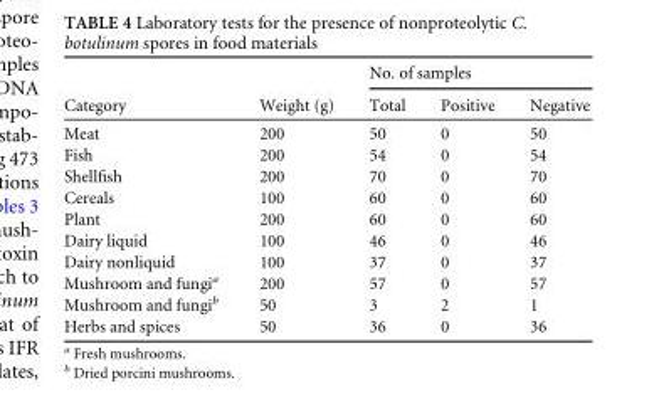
<table><thead><tr><td rowspan="2">Category</td><td rowspan="2">Weight (g)</td><td colspan="3">No. of samples</td></tr><tr><td>Total</td><td>Positive</td><td>Negative</td></tr></thead><tbody><tr><td>Meat</td><td>200</td><td>50</td><td>0</td><td>50</td></tr><tr><td>Fish</td><td>200</td><td>54</td><td>0</td><td>54</td></tr><tr><td>Shellfish</td><td>200</td><td>70</td><td>0</td><td>70</td></tr><tr><td>Cereals</td><td>100</td><td>60</td><td>0</td><td>60</td></tr><tr><td>Plant</td><td>200</td><td>60</td><td>0</td><td>60</td></tr><tr><td>Dairy liquid</td><td>100</td><td>46</td><td>0</td><td>46</td></tr><tr><td>Dairy nonliquid</td><td>100</td><td>37</td><td>0</td><td>37</td></tr><tr><td>Mushroom and fungi<sup>a</sup></td><td>200</td><td>57</td><td>0</td><td>57</td></tr><tr><td>Mushroom and fungi<sup>b</sup></td><td>50</td><td>3</td><td>2</td><td>1</td></tr><tr><td>Herbs and spices</td><td>50</td><td>36</td><td>0</td><td>36</td></tr></tbody></table>